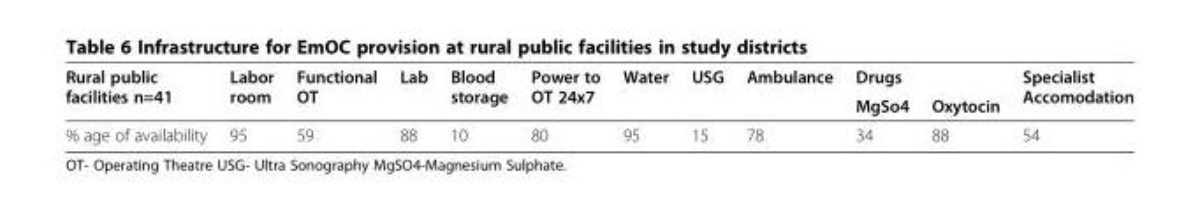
<table><thead><tr><td rowspan="2">Rural public facilities n=41</td><td rowspan="2">Labor room</td><td rowspan="2">Functional OT</td><td rowspan="2">Lab</td><td rowspan="2">Blood storage</td><td rowspan="2">Power to OT 24x7</td><td rowspan="2">Water</td><td rowspan="2">USG</td><td rowspan="2">Ambulance</td><td colspan="2">Drugs</td><td rowspan="2">Specialist Accomodation</td></tr><tr><td>MgSo4</td><td>Oxytocin</td></tr></thead><tbody><tr><td>% age of availability</td><td>95</td><td>59</td><td>88</td><td>10</td><td>80</td><td>95</td><td>15</td><td>78</td><td>34</td><td>88</td><td>54</td></tr></tbody></table>